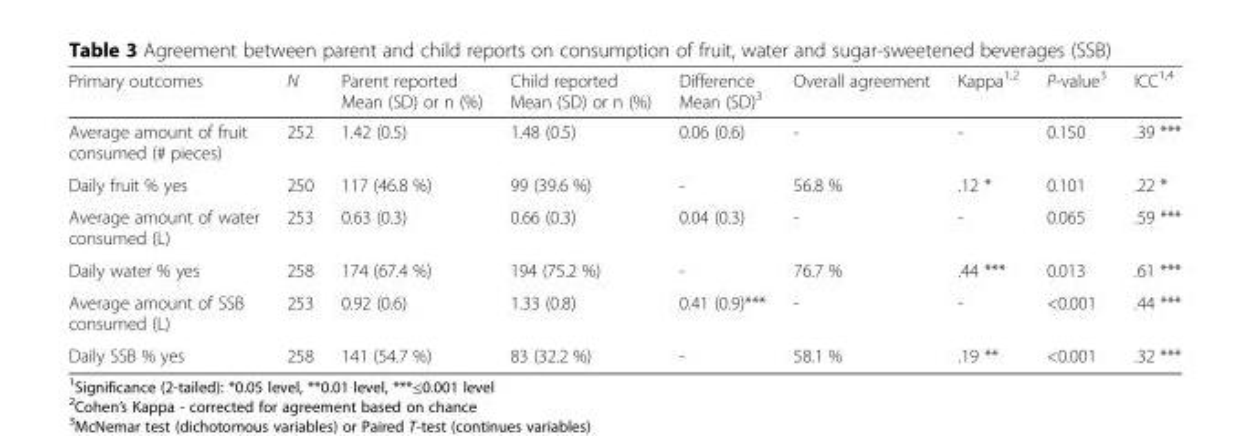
<table><thead><tr><td>Primary outcomes</td><td>N</td><td>Parent reported Mean (SD) or n (%)</td><td>Child reported Mean (SD) or n (%)</td><td>Difference Mean (SD)<sup>3</sup></td><td>Overall agreement</td><td>Kappa<sup>1,2</sup></td><td>P-value<sup>3</sup></td><td>ICC<sup>1,4</sup></td></tr></thead><tbody><tr><td>Average amount of fruit consumed (# pieces)</td><td>252</td><td>1.42 (0.5)</td><td>1.48 (0.5)</td><td>0.06 (0.6)</td><td>-</td><td>-</td><td>0.150</td><td>.39 ***</td></tr><tr><td>Daily fruit % yes</td><td>250</td><td>117 (46.8 %)</td><td>99 (39.6 %)</td><td>-</td><td>56.8 %</td><td>.12 *</td><td>0.101</td><td>.22 *</td></tr><tr><td>Average amount of water consumed (L)</td><td>253</td><td>0.63 (0.3)</td><td>0.66 (0.3)</td><td>0.04 (0.3)</td><td>-</td><td>-</td><td>0.065</td><td>.59 ***</td></tr><tr><td>Daily water % yes</td><td>258</td><td>174 (67.4 %)</td><td>194 (75.2 %)</td><td>-</td><td>76.7 %</td><td>.44 ***</td><td>0.013</td><td>.61 ***</td></tr><tr><td>Average amount of SSB consumed (L)</td><td>253</td><td>0.92 (0.6)</td><td>1.33 (0.8)</td><td>0.41 (0.9)***</td><td>-</td><td>-</td><td>&lt;0.001</td><td>.44 ***</td></tr><tr><td>Daily SSB % yes</td><td>258</td><td>141 (54.7 %)</td><td>83 (32.2 %)</td><td>-</td><td>58.1 %</td><td>.19 **</td><td>&lt;0.001</td><td>.32 ***</td></tr></tbody></table>